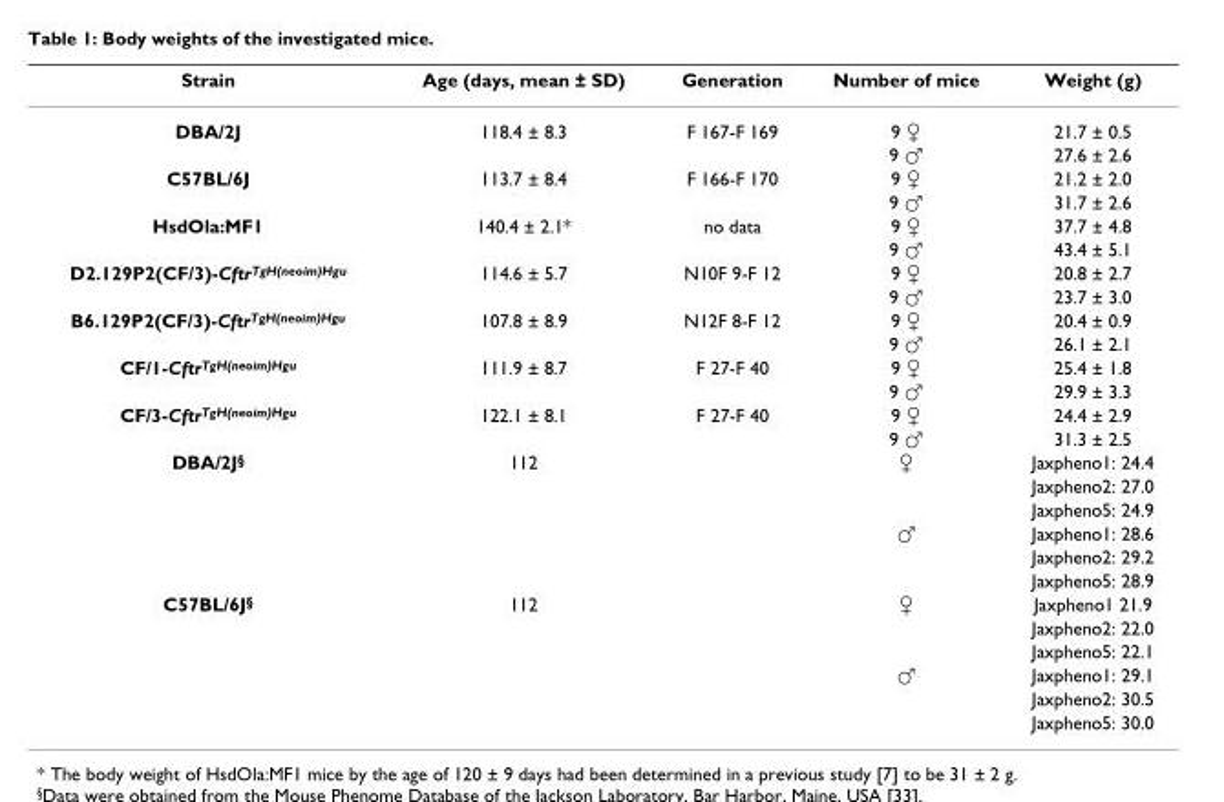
<table><thead><tr><td>Strain</td><td>Age (days, mean ± SD)</td><td>Generation</td><td>Number of mice</td><td>Weight (g)</td></tr></thead><tbody><tr><td rowspan="2">DBA/2J</td><td>118.4 ± 8.3</td><td>F 167-F 169</td><td>9 ♀</td><td>21.7 ± 0.5</td></tr><tr><td></td><td></td><td>9 ♂</td><td>27.6 ± 2.6</td></tr><tr><td rowspan="2">C57BL/6J</td><td>113.7 ± 8.4</td><td>F 166-F 170</td><td>9 ♀</td><td>21.2 ± 2.0</td></tr><tr><td></td><td></td><td>9 ♂</td><td>31.7 ± 2.6</td></tr><tr><td rowspan="2">HsdOla:MF1</td><td>140.4 ± 2.1*</td><td>no data</td><td>9 ♀</td><td>37.7 ± 4.8</td></tr><tr><td></td><td></td><td>9 ♂</td><td>43.4 ± 5.1</td></tr><tr><td rowspan="2">D2.129P2(CF/3)-Cftr<sup>TgH(neoim)Hgu</sup></td><td>114.6 ± 5.7</td><td>N10F 9-F 12</td><td>9 ♀</td><td>20.8 ± 2.7</td></tr><tr><td></td><td></td><td>9 ♂</td><td>23.7 ± 3.0</td></tr><tr><td rowspan="2">B6.129P2(CF/3)-Cftr<sup>TgH(neoim)Hgu</sup></td><td>107.8 ± 8.9</td><td>N12F 8-F 12</td><td>9 ♀</td><td>20.4 ± 0.9</td></tr><tr><td></td><td></td><td>9 ♂</td><td>26.1 ± 2.1</td></tr><tr><td rowspan="2">CF/1-Cftr<sup>TgH(neoim)Hgu</sup></td><td>111.9 ± 8.7</td><td>F 27-F 40</td><td>9 ♀</td><td>25.4 ± 1.8</td></tr><tr><td></td><td></td><td>9 ♂</td><td>29.9 ± 3.3</td></tr><tr><td rowspan="2">CF/3-Cftr<sup>TgH(neoim)Hgu</sup></td><td>122.1 ± 8.1</td><td>F 27-F 40</td><td>9 ♀</td><td>24.4 ± 2.9</td></tr><tr><td></td><td></td><td>9 ♂</td><td>31.3 ± 2.5</td></tr><tr><td rowspan="6">DBA/2J<sup>§</sup></td><td>112</td><td></td><td>♀</td><td>Jaxpheno1: 24.4</td></tr><tr><td></td><td></td><td></td><td>Jaxpheno2: 27.0</td></tr><tr><td></td><td></td><td></td><td>Jaxpheno5: 24.9</td></tr><tr><td></td><td></td><td>♂</td><td>Jaxpheno1: 28.6</td></tr><tr><td></td><td></td><td></td><td>Jaxpheno2: 29.2</td></tr><tr><td></td><td></td><td></td><td>Jaxpheno5: 28.9</td></tr><tr><td rowspan="6">C57BL/6J<sup>§</sup></td><td>112</td><td></td><td>♀</td><td>Jaxpheno1 21.9</td></tr><tr><td></td><td></td><td></td><td>Jaxpheno2: 22.0</td></tr><tr><td></td><td></td><td></td><td>Jaxpheno5: 22.1</td></tr><tr><td></td><td></td><td>♂</td><td>Jaxpheno1: 29.1</td></tr><tr><td></td><td></td><td></td><td>Jaxpheno2: 30.5</td></tr><tr><td></td><td></td><td></td><td>Jaxpheno5: 30.0</td></tr></tbody></table>